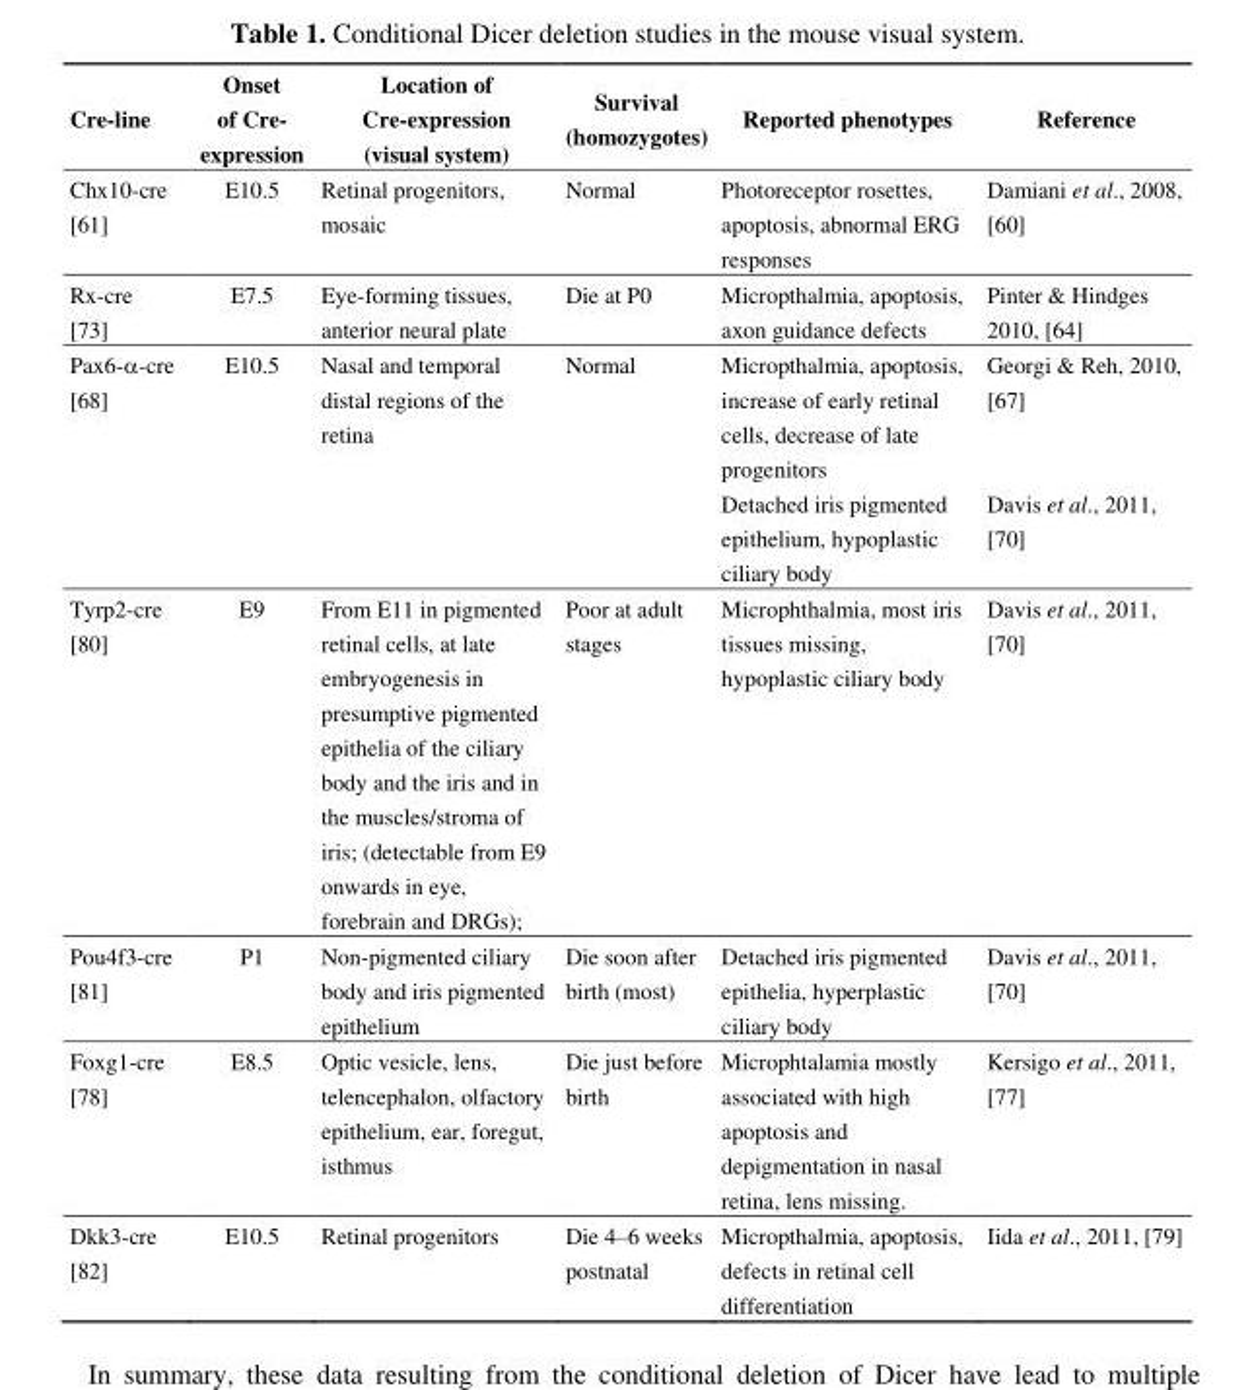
<table><thead><tr><td>Cre-line</td><td>Onset of Cre- expression</td><td>Location of Cre-expression (visual system)</td><td>Survival (homozygotes)</td><td>Reported phenotypes</td><td>Reference</td></tr></thead><tbody><tr><td>Chx10-cre [61]</td><td>E10.5</td><td>Retinal progenitors, mosaic</td><td>Normal</td><td>Photoreceptor rosettes, apoptosis, abnormal ERG responses</td><td>Damiani et al., 2008, [60]</td></tr><tr><td>Rx-cre [73]</td><td>E7.5</td><td>Eye-forming tissues, anterior neural plate</td><td>Die at P0</td><td>Micropthalmia, apoptosis, axon guidance defects</td><td>Pinter &amp; Hindges 2010, [64]</td></tr><tr><td rowspan="2">Pax6-α-cre [68]</td><td rowspan="2">E10.5</td><td rowspan="2">Nasal and temporal distal regions of the retina</td><td rowspan="2">Normal</td><td>Micropthalmia, apoptosis, increase of early retinal cells, decrease of late progenitors</td><td>Georgi &amp; Reh, 2010, [67]</td></tr><tr><td>Detached iris pigmented epithelium, hypoplastic ciliary body</td><td>Davis et al., 2011, [70]</td></tr><tr><td>Tyrp2-cre [80]</td><td>E9</td><td>From E11 in pigmented retinal cells, at late embryogenesis in presumptive pigmented epithelia of the ciliary body and the iris and in the muscles/stroma of iris; (detectable from E9 onwards in eye, forebrain and DRGs);</td><td>Poor at adult stages</td><td>Microphthalmia, most iris tissues missing, hypoplastic ciliary body</td><td>Davis et al., 2011, [70]</td></tr><tr><td>Pou4f3-cre [81]</td><td>P1</td><td>Non-pigmented ciliary body and iris pigmented epithelium</td><td>Die soon after birth (most)</td><td>Detached iris pigmented epithelia, hyperplastic ciliary body</td><td>Davis et al., 2011, [70]</td></tr><tr><td>Foxg1-cre [78]</td><td>E8.5</td><td>Optic vesicle, lens, telencephalon, olfactory epithelium, ear, foregut, isthmus</td><td>Die just before birth</td><td>Microphtalamia mostly associated with high apoptosis and depigmentation in nasal retina, lens missing.</td><td>Kersigo et al., 2011, [77]</td></tr><tr><td>Dkk3-cre [82]</td><td>E10.5</td><td>Retinal progenitors</td><td>Die 4–6 weeks postnatal</td><td>Micropthalmia, apoptosis, defects in retinal cell differentiation</td><td>Iida et al., 2011, [79]</td></tr></tbody></table>